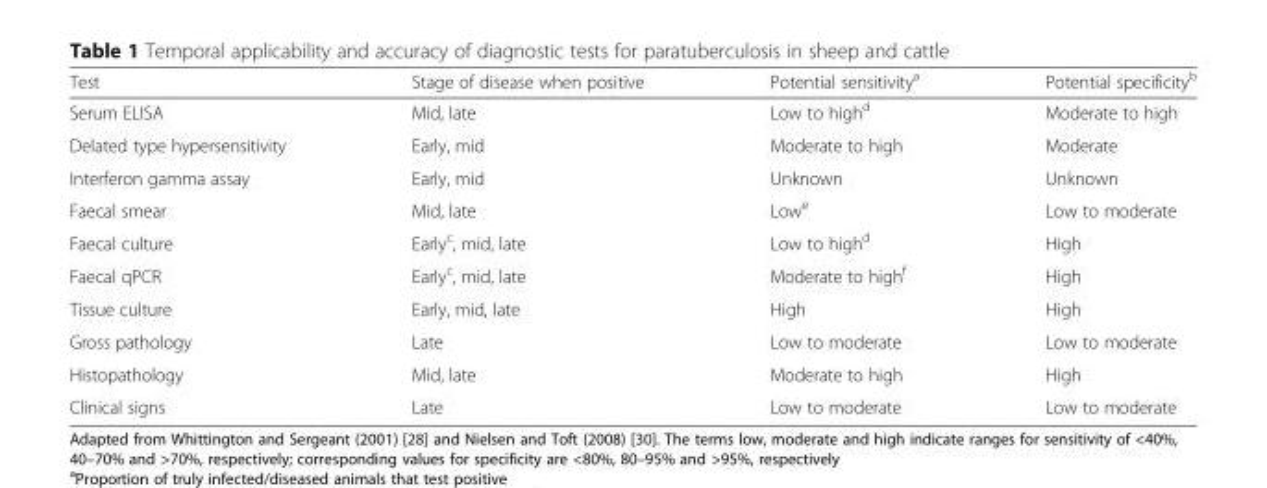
<table><thead><tr><td>Test</td><td>Stage of disease when positive</td><td>Potential sensitivity<sup>a</sup></td><td>Potential specificity<sup>b</sup></td></tr></thead><tbody><tr><td>Serum ELISA</td><td>Mid, late</td><td>Low to high<sup>d</sup></td><td>Moderate to high</td></tr><tr><td>Delated type hypersensitivity</td><td>Early, mid</td><td>Moderate to high</td><td>Moderate</td></tr><tr><td>Interferon gamma assay</td><td>Early, mid</td><td>Unknown</td><td>Unknown</td></tr><tr><td>Faecal smear</td><td>Mid, late</td><td>Low<sup>e</sup></td><td>Low to moderate</td></tr><tr><td>Faecal culture</td><td>Early<sup>c</sup>, mid, late</td><td>Low to high<sup>d</sup></td><td>High</td></tr><tr><td>Faecal qPCR</td><td>Early<sup>c</sup>, mid, late</td><td>Moderate to high<sup>f</sup></td><td>High</td></tr><tr><td>Tissue culture</td><td>Early, mid, late</td><td>High</td><td>High</td></tr><tr><td>Gross pathology</td><td>Late</td><td>Low to moderate</td><td>Low to moderate</td></tr><tr><td>Histopathology</td><td>Mid, late</td><td>Moderate to high</td><td>High</td></tr><tr><td>Clinical signs</td><td>Late</td><td>Low to moderate</td><td>Low to moderate</td></tr></tbody></table>